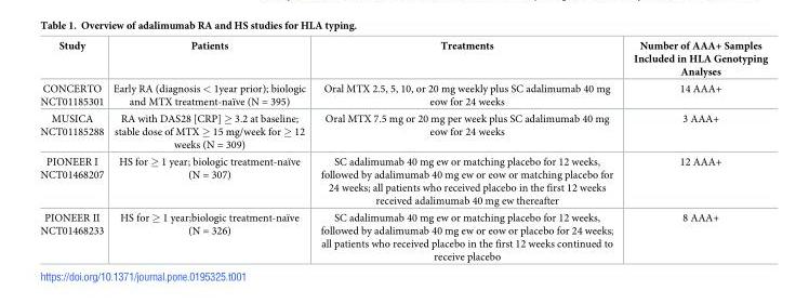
<table><thead><tr><td>Study</td><td>Patients</td><td>Treatments</td><td>Number of AAA+ Samples Included in HLA Genotyping Analyses</td></tr></thead><tbody><tr><td>CONCERTO NCT01185301</td><td>Early RA (diagnosis &lt; 1year prior); biologic and MTX treatment-naïve (N = 395)</td><td>Oral MTX 2.5, 5, 10, or 20 mg weekly plus SC adalimumab 40 mg eow for 24 weeks</td><td>14 AAA+</td></tr><tr><td>MUSICA NCT01185288</td><td>RA with DAS28 [CRP] ≥ 3.2 at baseline; stable dose of MTX ≥ 15 mg/week for ≥ 12 weeks (N = 309)</td><td>Oral MTX 7.5 mg or 20 mg per week plus SC adalimumab 40 mg eow for 24 weeks</td><td>3 AAA+</td></tr><tr><td>PIONEER I NCT01468207</td><td>HS for ≥ 1 year; biologic treatment-naïve (N = 307)</td><td>SC adalimumab 40 mg ew or matching placebo for 12 weeks, followed by adalimumab 40 mg ew or eow or matching placebo for 24 weeks; all patients who received placebo in the first 12 weeks received adalimumab 40 mg ew thereafter</td><td>12 AAA+</td></tr><tr><td>PIONEER II NCT01468233</td><td>HS for ≥ 1 year;biologic treatment-naïve (N = 326)</td><td>SC adalimumab 40 mg ew or matching placebo for 12 weeks, followed by adalimumab 40 mg ew or eow or placebo for 24 weeks; all patients who received placebo in the first 12 weeks continued to receive placebo</td><td>8 AAA+</td></tr></tbody></table>